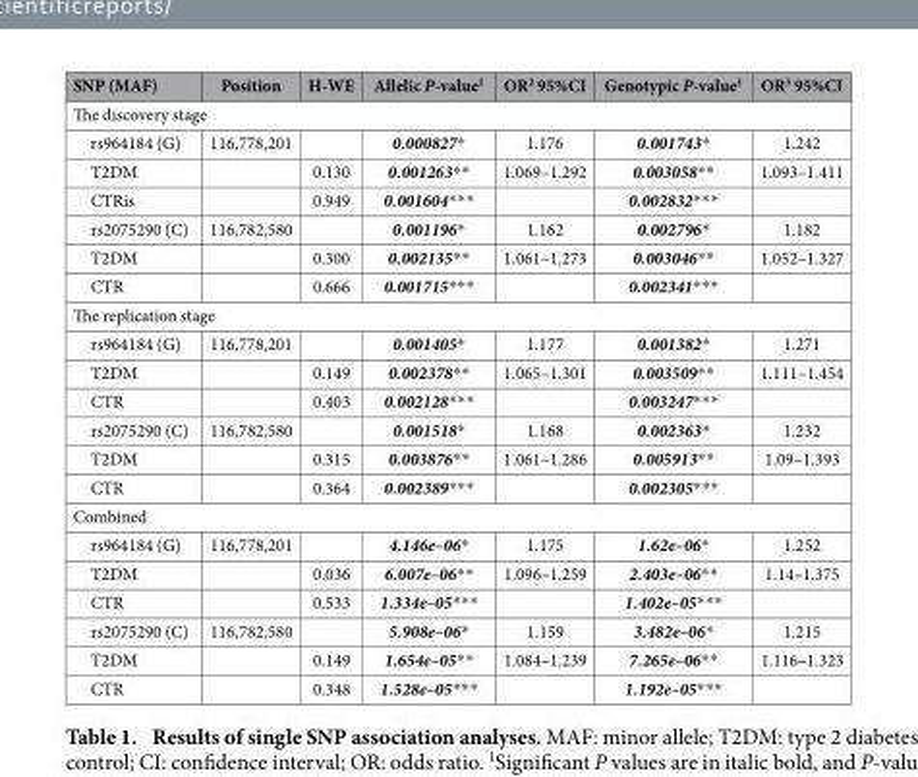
<table><thead><tr><td>SNP (MAF)</td><td>Position</td><td>H-WE</td><td>Allelic P-value<sup>1</sup></td><td>OR<sup>2</sup> 95%CI</td><td>Genotypic P-value<sup>1</sup></td><td>OR<sup>3</sup> 95%CI</td></tr></thead><tbody><tr><td colspan="7">The discovery stage</td></tr><tr><td>rs964184 (G)</td><td>116,778,201</td><td></td><td>0.000827*</td><td>1.176</td><td>0.001743*</td><td>1.242</td></tr><tr><td>T2DM</td><td></td><td>0.130</td><td>0.001263**</td><td>1.069–1.292</td><td>0.003058**</td><td>1.093–1.411</td></tr><tr><td>CTRis</td><td></td><td>0.949</td><td>0.001604***</td><td></td><td>0.002832***</td><td></td></tr><tr><td>rs2075290 (C)</td><td>116,782,580</td><td></td><td>0.001196*</td><td>1.162</td><td>0.002796*</td><td>1.182</td></tr><tr><td>T2DM</td><td></td><td>0.300</td><td>0.002135**</td><td>1.061–1.273</td><td>0.003046**</td><td>1.052–1.327</td></tr><tr><td>CTR</td><td></td><td>0.666</td><td>0.001715***</td><td></td><td>0.002341***</td><td></td></tr><tr><td colspan="7">The replication stage</td></tr><tr><td>rs964184 (G)</td><td>116,778,201</td><td></td><td>0.001405*</td><td>1.177</td><td>0.001382*</td><td>1.271</td></tr><tr><td>T2DM</td><td></td><td>0.149</td><td>0.002378**</td><td>1.065–1.301</td><td>0.003509**</td><td>1.111–1.454</td></tr><tr><td>CTR</td><td></td><td>0.403</td><td>0.002128***</td><td></td><td>0.003247***</td><td></td></tr><tr><td>rs2075290 (C)</td><td>116,782,580</td><td></td><td>0.001518*</td><td>1.168</td><td>0.002363*</td><td>1.232</td></tr><tr><td>T2DM</td><td></td><td>0.315</td><td>0.003876**</td><td>1.061–1.286</td><td>0.005913**</td><td>1.09–1.393</td></tr><tr><td>CTR</td><td></td><td>0.364</td><td>0.002389***</td><td></td><td>0.002305***</td><td></td></tr><tr><td colspan="7">Combined</td></tr><tr><td>rs964184 (G)</td><td>116,778,201</td><td></td><td>4.146e–06*</td><td>1.175</td><td>1.62e–06*</td><td>1.252</td></tr><tr><td>T2DM</td><td></td><td>0.036</td><td>6.007e–06**</td><td>1.096–1.259</td><td>2.403e–06**</td><td>1.14–1.375</td></tr><tr><td>CTR</td><td></td><td>0.533</td><td>1.334e–05***</td><td></td><td>1.402e–05***</td><td></td></tr><tr><td>rs2075290 (C)</td><td>116,782,580</td><td></td><td>5.908e–06*</td><td>1.159</td><td>3.482e–06*</td><td>1.215</td></tr><tr><td>T2DM</td><td></td><td>0.149</td><td>1.654e–05**</td><td>1.084–1.239</td><td>7.265e–06**</td><td>1.116–1.323</td></tr><tr><td>CTR</td><td></td><td>0.348</td><td>1.528e–05***</td><td></td><td>1.192e–05***</td><td></td></tr></tbody></table>